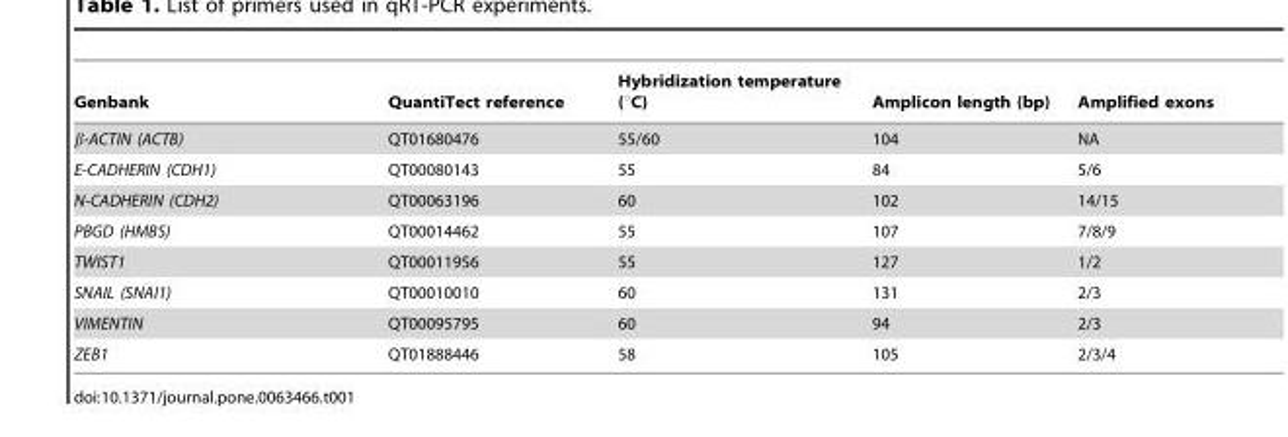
<table><thead><tr><td>Genbank</td><td>QuantiTect reference</td><td>Hybridization temperature (°C)</td><td>Amplicon length (bp)</td><td>Amplified exons</td></tr></thead><tbody><tr><td>β-ACTIN (ACTB)</td><td>QT01680476</td><td>55/60</td><td>104</td><td>NA</td></tr><tr><td>E-CADHERIN (CDH1)</td><td>QT00080143</td><td>55</td><td>84</td><td>5/6</td></tr><tr><td>N-CADHERIN (CDH2)</td><td>QT00063196</td><td>60</td><td>102</td><td>14/15</td></tr><tr><td>PBGD (HMBS)</td><td>QT00014462</td><td>55</td><td>107</td><td>7/8/9</td></tr><tr><td>TWIST1</td><td>QT00011956</td><td>55</td><td>127</td><td>1/2</td></tr><tr><td>SNAIL (SNAI1)</td><td>QT00010010</td><td>60</td><td>131</td><td>2/3</td></tr><tr><td>VIMENTIN</td><td>QT00095795</td><td>60</td><td>94</td><td>2/3</td></tr><tr><td>ZEB1</td><td>QT01888446</td><td>58</td><td>105</td><td>2/3/4</td></tr></tbody></table>